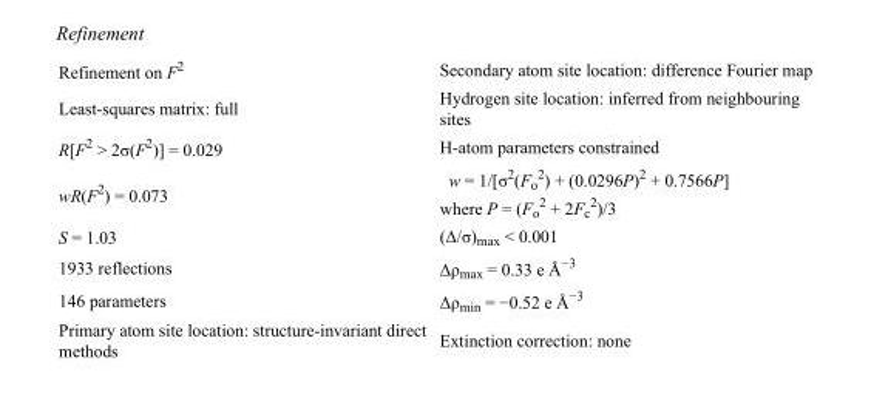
<table><tbody><tr><td>Refinement on F<sup>2</sup></td><td>Secondary atom site location: difference Fourier map</td></tr><tr><td>Least-squares matrix: full</td><td>Hydrogen site location: inferred from neighbouring sites</td></tr><tr><td>R[F<sup>2</sup> &gt; 2σ(F<sup>2</sup>)] = 0.029</td><td>H-atom parameters constrained</td></tr><tr><td>wR(F<sup>2</sup>) = 0.073</td><td>w = 1/[σ<sup>2</sup>(F<sub>o</sub> <sup>2</sup>) + (0.0296P)<sup>2</sup> + 0.7566P] where P = (F<sub>o</sub> <sup>2</sup> + 2F<sub>c</sub> <sup>2</sup>)/3</td></tr><tr><td>S = 1.03</td><td>(Δ/σ)<sub>max</sub> &lt; 0.001</td></tr><tr><td>1933 reflections</td><td>Δρ<sub>max</sub> = 0.33 e Å<sup>−3</sup></td></tr><tr><td>146 parameters</td><td>Δρ<sub>min</sub> = −0.52 e Å<sup>−3</sup></td></tr><tr><td>Primary atom site location: structure-invariant direct methods</td><td>Extinction correction: none</td></tr></tbody></table>